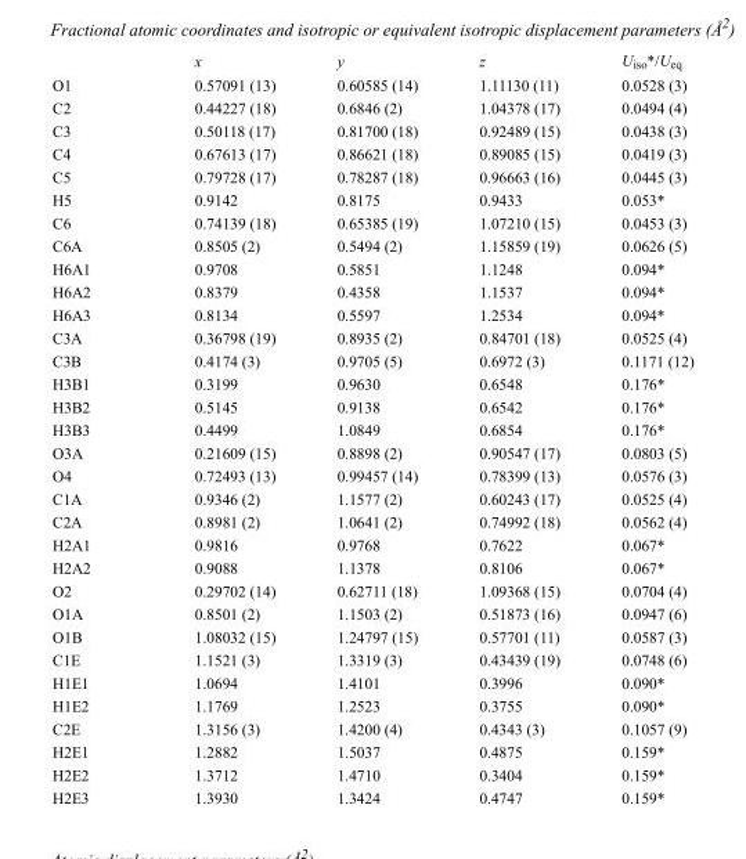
<table><thead><tr><td></td><td>x</td><td>y</td><td>z</td><td>U<sub>iso</sub>*/U<sub>eq</sub></td></tr></thead><tbody><tr><td>O1</td><td>0.57091 (13)</td><td>0.60585 (14)</td><td>1.11130 (11)</td><td>0.0528 (3)</td></tr><tr><td>C2</td><td>0.44227 (18)</td><td>0.6846 (2)</td><td>1.04378 (17)</td><td>0.0494 (4)</td></tr><tr><td>C3</td><td>0.50118 (17)</td><td>0.81700 (18)</td><td>0.92489 (15)</td><td>0.0438 (3)</td></tr><tr><td>C4</td><td>0.67613 (17)</td><td>0.86621 (18)</td><td>0.89085 (15)</td><td>0.0419 (3)</td></tr><tr><td>C5</td><td>0.79728 (17)</td><td>0.78287 (18)</td><td>0.96663 (16)</td><td>0.0445 (3)</td></tr><tr><td>H5</td><td>0.9142</td><td>0.8175</td><td>0.9433</td><td>0.053*</td></tr><tr><td>C6</td><td>0.74139 (18)</td><td>0.65385 (19)</td><td>1.07210 (15)</td><td>0.0453 (3)</td></tr><tr><td>C6A</td><td>0.8505 (2)</td><td>0.5494 (2)</td><td>1.15859 (19)</td><td>0.0626 (5)</td></tr><tr><td>H6A1</td><td>0.9708</td><td>0.5851</td><td>1.1248</td><td>0.094*</td></tr><tr><td>H6A2</td><td>0.8379</td><td>0.4358</td><td>1.1537</td><td>0.094*</td></tr><tr><td>H6A3</td><td>0.8134</td><td>0.5597</td><td>1.2534</td><td>0.094*</td></tr><tr><td>C3A</td><td>0.36798 (19)</td><td>0.8935 (2)</td><td>0.84701 (18)</td><td>0.0525 (4)</td></tr><tr><td>C3B</td><td>0.4174 (3)</td><td>0.9705 (5)</td><td>0.6972 (3)</td><td>0.1171 (12)</td></tr><tr><td>H3B1</td><td>0.3199</td><td>0.9630</td><td>0.6548</td><td>0.176*</td></tr><tr><td>H3B2</td><td>0.5145</td><td>0.9138</td><td>0.6542</td><td>0.176*</td></tr><tr><td>H3B3</td><td>0.4499</td><td>1.0849</td><td>0.6854</td><td>0.176*</td></tr><tr><td>O3A</td><td>0.21609 (15)</td><td>0.8898 (2)</td><td>0.90547 (17)</td><td>0.0803 (5)</td></tr><tr><td>O4</td><td>0.72493 (13)</td><td>0.99457 (14)</td><td>0.78399 (13)</td><td>0.0576 (3)</td></tr><tr><td>C1A</td><td>0.9346 (2)</td><td>1.1577 (2)</td><td>0.60243 (17)</td><td>0.0525 (4)</td></tr><tr><td>C2A</td><td>0.8981 (2)</td><td>1.0641 (2)</td><td>0.74992 (18)</td><td>0.0562 (4)</td></tr><tr><td>H2A1</td><td>0.9816</td><td>0.9768</td><td>0.7622</td><td>0.067*</td></tr><tr><td>H2A2</td><td>0.9088</td><td>1.1378</td><td>0.8106</td><td>0.067*</td></tr><tr><td>O2</td><td>0.29702 (14)</td><td>0.62711 (18)</td><td>1.09368 (15)</td><td>0.0704 (4)</td></tr><tr><td>O1A</td><td>0.8501 (2)</td><td>1.1503 (2)</td><td>0.51873 (16)</td><td>0.0947 (6)</td></tr><tr><td>O1B</td><td>1.08032 (15)</td><td>1.24797 (15)</td><td>0.57701 (11)</td><td>0.0587 (3)</td></tr><tr><td>C1E</td><td>1.1521 (3)</td><td>1.3319 (3)</td><td>0.43439 (19)</td><td>0.0748 (6)</td></tr><tr><td>H1E1</td><td>1.0694</td><td>1.4101</td><td>0.3996</td><td>0.090*</td></tr><tr><td>H1E2</td><td>1.1769</td><td>1.2523</td><td>0.3755</td><td>0.090*</td></tr><tr><td>C2E</td><td>1.3156 (3)</td><td>1.4200 (4)</td><td>0.4343 (3)</td><td>0.1057 (9)</td></tr><tr><td>H2E1</td><td>1.2882</td><td>1.5037</td><td>0.4875</td><td>0.159*</td></tr><tr><td>H2E2</td><td>1.3712</td><td>1.4710</td><td>0.3404</td><td>0.159*</td></tr><tr><td>H2E3</td><td>1.3930</td><td>1.3424</td><td>0.4747</td><td>0.159*</td></tr></tbody></table>